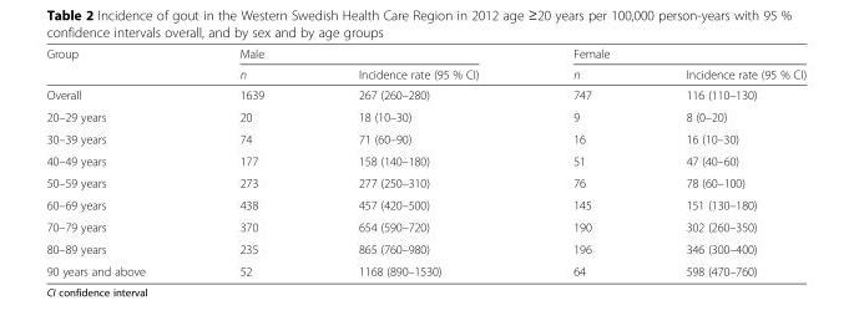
<table><thead><tr><td rowspan="2">Group</td><td colspan="2">Male</td><td colspan="2">Female</td></tr><tr><td>n</td><td>Incidence rate (95 % CI)</td><td>n</td><td>Incidence rate (95 % CI)</td></tr></thead><tbody><tr><td>Overall</td><td>1639</td><td>267 (260–280)</td><td>747</td><td>116 (110–130)</td></tr><tr><td>20–29 years</td><td>20</td><td>18 (10–30)</td><td>9</td><td>8 (0–20)</td></tr><tr><td>30–39 years</td><td>74</td><td>71 (60–90)</td><td>16</td><td>16 (10–30)</td></tr><tr><td>40–49 years</td><td>177</td><td>158 (140–180)</td><td>51</td><td>47 (40–60)</td></tr><tr><td>50–59 years</td><td>273</td><td>277 (250–310)</td><td>76</td><td>78 (60–100)</td></tr><tr><td>60–69 years</td><td>438</td><td>457 (420–500)</td><td>145</td><td>151 (130–180)</td></tr><tr><td>70–79 years</td><td>370</td><td>654 (590–720)</td><td>190</td><td>302 (260–350)</td></tr><tr><td>80–89 years</td><td>235</td><td>865 (760–980)</td><td>196</td><td>346 (300–400)</td></tr><tr><td>90 years and above</td><td>52</td><td>1168 (890–1530)</td><td>64</td><td>598 (470–760)</td></tr></tbody></table>